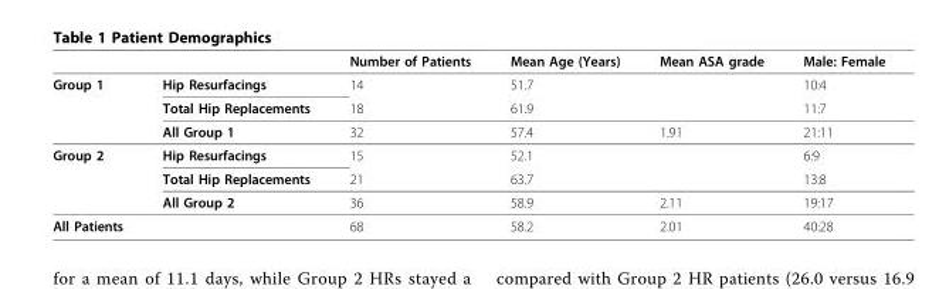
<table><thead><tr><td></td><td></td><td>Number of Patients</td><td>Mean Age (Years)</td><td>Mean ASA grade</td><td>Male: Female</td></tr></thead><tbody><tr><td rowspan="3">Group 1</td><td>Hip Resurfacings</td><td>14</td><td>51.7</td><td></td><td>10:4</td></tr><tr><td>Total Hip Replacements</td><td>18</td><td>61.9</td><td></td><td>11:7</td></tr><tr><td>All Group 1</td><td>32</td><td>57.4</td><td>1.91</td><td>21:11</td></tr><tr><td rowspan="3">Group 2</td><td>Hip Resurfacings</td><td>15</td><td>52.1</td><td></td><td>6:9</td></tr><tr><td>Total Hip Replacements</td><td>21</td><td>63.7</td><td></td><td>13:8</td></tr><tr><td>All Group 2</td><td>36</td><td>58.9</td><td>2.11</td><td>19:17</td></tr><tr><td>All Patients</td><td></td><td>68</td><td>58.2</td><td>2.01</td><td>40:28</td></tr></tbody></table>